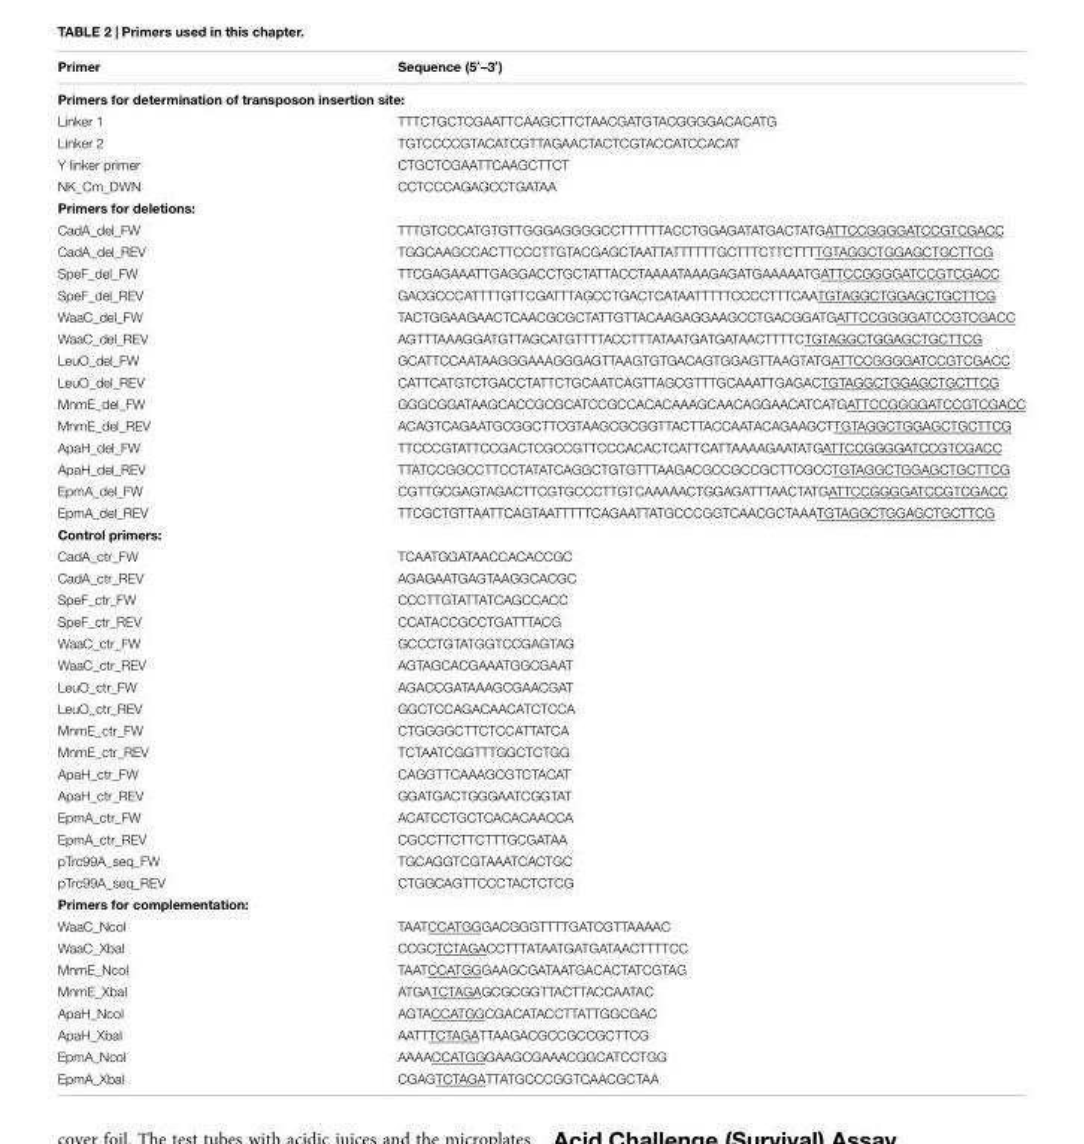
<table><thead><tr><td>Primer</td><td>Sequence (5′–3′)</td></tr></thead><tbody><tr><td colspan="2">Primers for determination of transposon insertion site:</td></tr><tr><td>Linker 1</td><td>TTTCTGCTCGAATTCAAGCTTCTAACGATGTACGGGGACACATG</td></tr><tr><td>Linker 2</td><td>TGTCCCCGTACATCGTTAGAACTACTCGTACCATCCACAT</td></tr><tr><td>Y linker primer</td><td>CTGCTCGAATTCAAGCTTCT</td></tr><tr><td>NK_Cm_DWN</td><td>CCTCCCAGAGCCTGATAA</td></tr><tr><td colspan="2">Primers for deletions:</td></tr><tr><td>CadA_del_FW</td><td>TTTGTCCCATGTGTTGGGAGGGGCCTTTTTTACCTGGAGATATGACTATGATTCCGGGGATCCGTCGACC</td></tr><tr><td>CadA_del_REV</td><td>TGGCAAGCCACTTCCCTTGTACGAGCTAATTATTTTTTGCTTTCTTCTTTTGTAGGCTGGAGCTGCTTCG</td></tr><tr><td>SpeF_del_FW</td><td>TTCGAGAAATTGAGGACCTGCTATTACCTAAAATAAAGAGATGAAAAATGATTCCGGGGATCCGTCGACC</td></tr><tr><td>SpeF_del_REV</td><td>GACGCCCATTTTGTTCGATTTAGCCTGACTCATAATTTTTCCCCTTTCAATGTAGGCTGGAGCTGCTTCG</td></tr><tr><td>WaaC_del_FW</td><td>TACTGGAAGAACTCAACGCGCTATTGTTACAAGAGGAAGCCTGACGGATGATTCCGGGGATCCGTCGACC</td></tr><tr><td>WaaC_del_REV</td><td>AGTTTAAAGGATGTTAGCATGTTTTACCTTTATAATGATGATAACTTTTCTGTAGGCTGGAGCTGCTTCG</td></tr><tr><td>LeuO_del_FW</td><td>GCATTCCAATAAGGGAAAGGGAGTTAAGTGTGACAGTGGAGTTAAGTATGATTCCGGGGATCCGTCGACC</td></tr><tr><td>LeuO_del_REV</td><td>CATTCATGTCTGACCTATTCTGCAATCAGTTAGCGTTTGCAAATTGAGACTGTAGGCTGGAGCTGCTTCG</td></tr><tr><td>MnmE_del_FW</td><td>GGGCGGATAAGCACCGCGCATCCGCCACACAAAGCAACAGGAACATCATGATTCCGGGGATCCGTCGACC</td></tr><tr><td>MnmE_del_REV</td><td>ACAGTCAGAATGCGGCTTCGTAAGCGCGGTTACTTACCAATACAGAAGCTTGTAGGCTGGAGCTGCTTCG</td></tr><tr><td>ApaH_del_FW</td><td>TTCCCGTATTCCGACTCGCCGTTCCCACACTCATTCATTAAAAGAATATGATTCCGGGGATCCGTCGACC</td></tr><tr><td>ApaH_del_REV</td><td>TTATCCGGCCTTCCTATATCAGGCTGTGTTTAAGACGCCGCCGCTTCGCCTGTAGGCTGGAGCTGCTTCG</td></tr><tr><td>EpmA_del_FW</td><td>CGTTGCGAGTAGACTTCGTGCCCTTGTCAAAAACTGGAGATTTAACTATGATTCCGGGGATCCGTCGACC</td></tr><tr><td>EpmA_del_REV</td><td>TTCGCTGTTAATTCAGTAATTTTTCAGAATTATGCCCGGTCAACGCTAAATGTAGGCTGGAGCTGCTTCG</td></tr><tr><td colspan="2">Control primers:</td></tr><tr><td>CadA_ctr_FW</td><td>TCAATGGATAACCACACCGC</td></tr><tr><td>CadA_ctr_REV</td><td>AGAGAATGAGTAAGGCACGC</td></tr><tr><td>SpeF_ctr_FW</td><td>CCCTTGTATTATCAGCCACC</td></tr><tr><td>SpeF_ctr_REV</td><td>CCATACCGCCTGATTTACG</td></tr><tr><td>WaaC_ctr_FW</td><td>GCCCTGTATGGTCCGAGTAG</td></tr><tr><td>WaaC_ctr_REV</td><td>AGTAGCACGAAATGGCGAAT</td></tr><tr><td>LeuO_ctr_FW</td><td>AGACCGATAAAGCGAACGAT</td></tr><tr><td>LeuO_ctr_REV</td><td>GGCTCCAGACAACATCTCCA</td></tr><tr><td>MnmE_ctr_FW</td><td>CTGGGGCTTCTCCATTATCA</td></tr><tr><td>MnmE_ctr_REV</td><td>TCTAATCGGTTTGGCTCTGG</td></tr><tr><td>ApaH_ctr_FW</td><td>CAGGTTCAAAGCGTCTACAT</td></tr><tr><td>ApaH_ctr_REV</td><td>GGATGACTGGGAATCGGTAT</td></tr><tr><td>EpmA_ctr_FW</td><td>ACATCCTGCTCACACAACCA</td></tr><tr><td>EpmA_ctr_REV</td><td>CGCCTTCTTCTTTGCGATAA</td></tr><tr><td>pTrc99A_seq_FW</td><td>TGCAGGTCGTAAATCACTGC</td></tr><tr><td>pTrc99A_seq_REV</td><td>CTGGCAGTTCCCTACTCTCG</td></tr><tr><td colspan="2">Primers for complementation:</td></tr><tr><td>WaaC_NcoI</td><td>TAATCCATGGGACGGGTTTTGATCGTTAAAAC</td></tr><tr><td>WaaC_XbaI</td><td>CCGCTCTAGACCTTTATAATGATGATAACTTTTCC</td></tr><tr><td>MnmE_NcoI</td><td>TAATCCATGGGAAGCGATAATGACACTATCGTAG</td></tr><tr><td>MnmE_XbaI</td><td>ATGATCTAGAGCGCGGTTACTTACCAATAC</td></tr><tr><td>ApaH_NcoI</td><td>AGTACCATGGCGACATACCTTATTGGCGAC</td></tr><tr><td>ApaH_XbaI</td><td>AATTTCTAGATTAAGACGCCGCCGCTTCG</td></tr><tr><td>EpmA_NcoI</td><td>AAAACCATGGGAAGCGAAACGGCATCCTGG</td></tr><tr><td>EpmA_XbaI</td><td>CGAGTCTAGATTATGCCCGGTCAACGCTAA</td></tr></tbody></table>